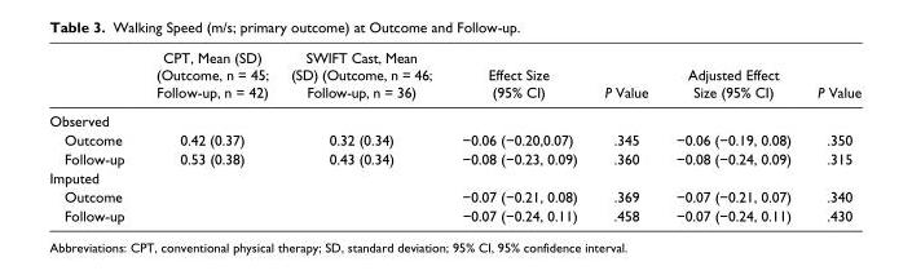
<table><thead><tr><td></td><td>CPT, Mean (SD) (Outcome, n = 45; Follow-up, n = 42)</td><td>SWIFT Cast, Mean (SD) (Outcome, n = 46; Follow-up, n = 36)</td><td>Effect Size (95% CI)</td><td>P Value</td><td>Adjusted Effect Size (95% CI)</td><td>P Value</td></tr></thead><tbody><tr><td colspan="7">Observed</td></tr><tr><td>Outcome</td><td>0.42 (0.37)</td><td>0.32 (0.34)</td><td>−0.06 (−0.20,0.07)</td><td>.345</td><td>−0.06 (−0.19, 0.08)</td><td>.350</td></tr><tr><td>Follow-up</td><td>0.53 (0.38)</td><td>0.43 (0.34)</td><td>−0.08 (−0.23, 0.09)</td><td>.360</td><td>−0.08 (−0.24, 0.09)</td><td>.315</td></tr><tr><td colspan="7">Imputed</td></tr><tr><td>Outcome</td><td></td><td></td><td>−0.07 (−0.21, 0.08)</td><td>.369</td><td>−0.07 (−0.21, 0.07)</td><td>.340</td></tr><tr><td>Follow-up</td><td></td><td></td><td>−0.07 (−0.24, 0.11)</td><td>.458</td><td>−0.07 (−0.24, 0.11)</td><td>.430</td></tr></tbody></table>